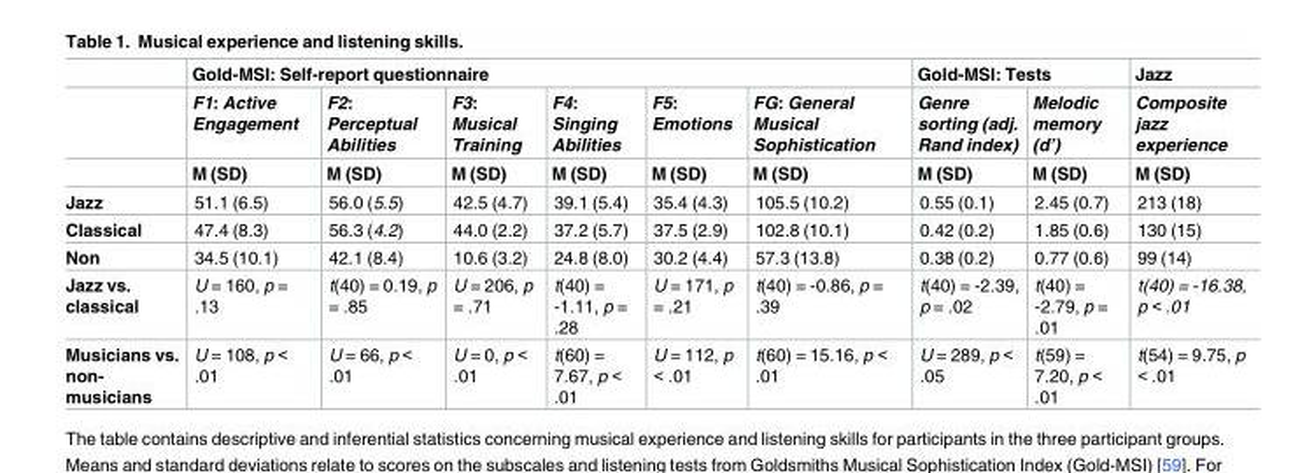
<table><thead><tr><td rowspan="3"></td><td colspan="6">Gold-MSI: Self-report questionnaire</td><td colspan="2">Gold-MSI: Tests</td><td rowspan="3">Jazz Composite jazz experience M (SD)</td></tr><tr><td rowspan="2">F1: Active Engagement M (SD)</td><td rowspan="2">F2: Perceptual Abilities M (SD)</td><td rowspan="2">F3: Musical Training M (SD)</td><td rowspan="2">F4: Singing Abilities M (SD)</td><td rowspan="2">F5: Emotions M (SD)</td><td rowspan="2">FG: General Musical Sophistication M (SD)</td><td rowspan="2">Genre sorting (adj. Rand index) M (SD)</td><td rowspan="2">Melodic memory (d’) M (SD)</td></tr><tr></tr></thead><tbody><tr><td>Jazz</td><td>51.1 (6.5)</td><td>56.0 (5.5)</td><td>42.5 (4.7)</td><td>39.1 (5.4)</td><td>35.4 (4.3)</td><td>105.5 (10.2)</td><td>0.55 (0.1)</td><td>2.45 (0.7)</td><td>213 (18)</td></tr><tr><td>Classical</td><td>47.4 (8.3)</td><td>56.3 (4.2)</td><td>44.0 (2.2)</td><td>37.2 (5.7)</td><td>37.5 (2.9)</td><td>102.8 (10.1)</td><td>0.42 (0.2)</td><td>1.85 (0.6)</td><td>130 (15)</td></tr><tr><td>Non</td><td>34.5 (10.1)</td><td>42.1 (8.4)</td><td>10.6 (3.2)</td><td>24.8 (8.0)</td><td>30.2 (4.4)</td><td>57.3 (13.8)</td><td>0.38 (0.2)</td><td>0.77 (0.6)</td><td>99 (14)</td></tr><tr><td>Jazz vs. classical</td><td>U = 160, p = .13</td><td>t(40) = 0.19, p = .85</td><td>U = 206, p = .71</td><td>t(40) = -1.11, p = .28</td><td>U = 171, p = .21</td><td>t(40) = -0.86, p = .39</td><td>t(40) = -2.39, p = .02</td><td>t(40) = -2.79, p = .01</td><td>t(40) = -16.38, p &lt; .01</td></tr><tr><td>Musicians vs. non- musicians</td><td>U = 108, p &lt; .01</td><td>U = 66, p &lt; .01</td><td>U = 0, p &lt; .01</td><td>t(60) = 7.67, p &lt; .01</td><td>U = 112, p &lt; .01</td><td>t(60) = 15.16, p &lt; .01</td><td>U = 289, p &lt; .05</td><td>t(59) = 7.20, p &lt; .01</td><td>t(54) = 9.75, p &lt; .01</td></tr></tbody></table>